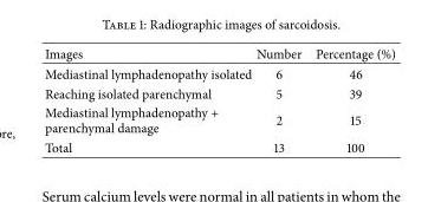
<table><thead><tr><td>Images</td><td>Number</td><td>Percentage (%)</td></tr></thead><tbody><tr><td>Mediastinal lymphadenopathy isolated</td><td>6</td><td>46</td></tr><tr><td>Reaching isolated parenchymal</td><td>5</td><td>39</td></tr><tr><td>Mediastinal lymphadenopathy + parenchymal damage</td><td>2</td><td>15</td></tr><tr><td>Total</td><td>13</td><td>100</td></tr></tbody></table>